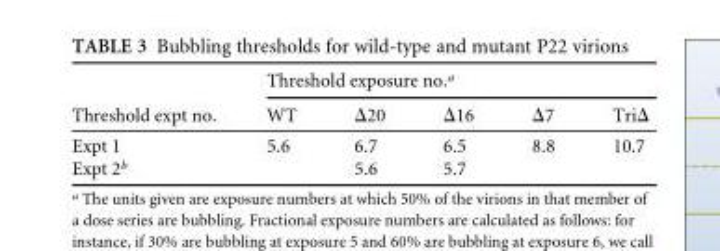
<table><thead><tr><td rowspan="2">Threshold expt no.</td><td colspan="5">Threshold exposure no.<sup>a</sup></td></tr><tr><td>WT</td><td>Δ20</td><td>Δ16</td><td>Δ7</td><td>TriΔ</td></tr></thead><tbody><tr><td>Expt 1</td><td>5.6</td><td>6.7</td><td>6.5</td><td>8.8</td><td>10.7</td></tr><tr><td>Expt 2<sup>b</sup></td><td></td><td>5.6</td><td>5.7</td><td></td><td></td></tr></tbody></table>